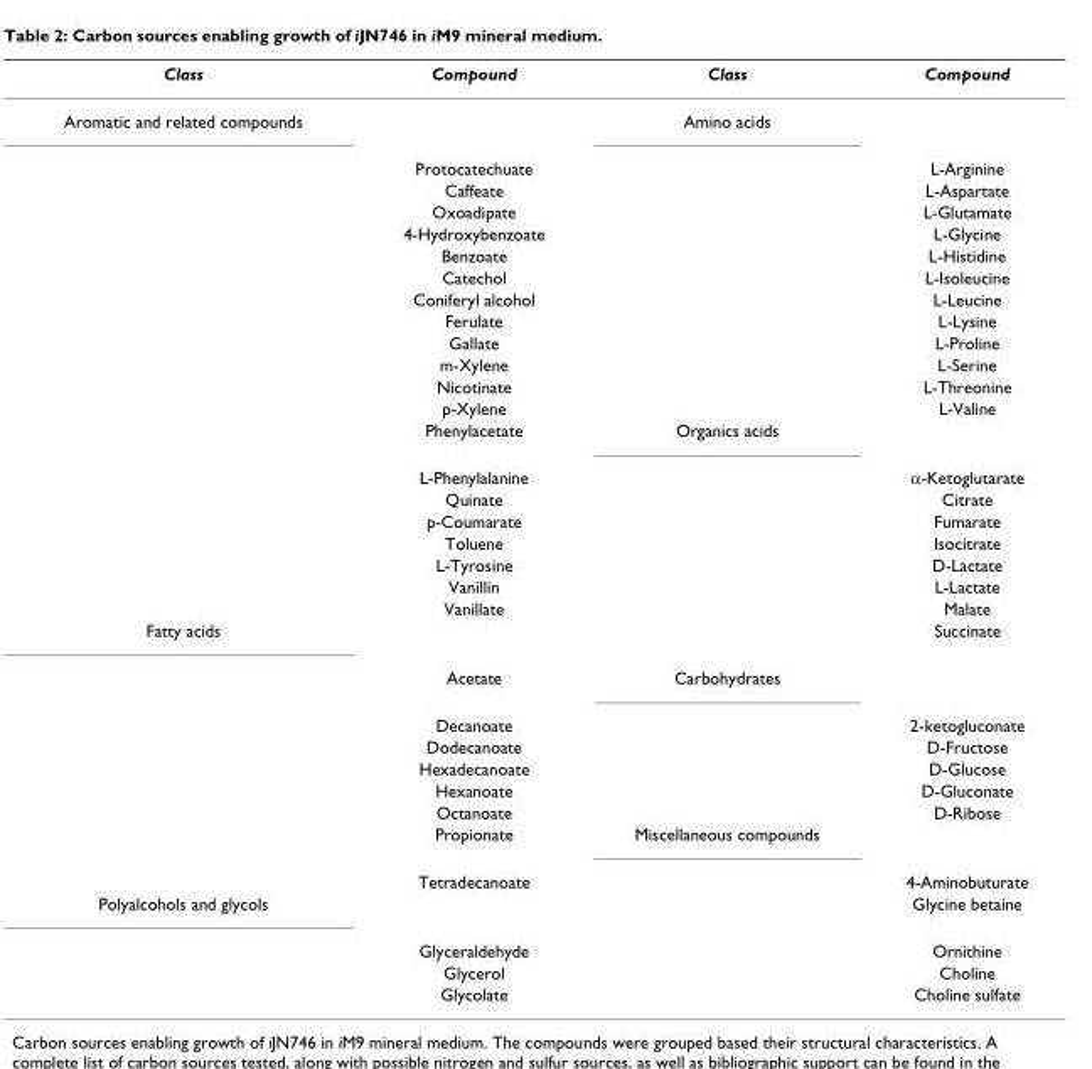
<table><thead><tr><td>Class</td><td>Compound</td><td>Class</td><td>Compound</td></tr></thead><tbody><tr><td rowspan="21">Aromatic and related compounds</td><td></td><td>Amino acids</td><td></td></tr><tr><td>Protocatechuate</td><td></td><td>L-Arginine</td></tr><tr><td>Caffeate</td><td></td><td>L-Aspartate</td></tr><tr><td>Oxoadipate</td><td></td><td>L-Glutamate</td></tr><tr><td>4-Hydroxybenzoate</td><td></td><td>L-Glycine</td></tr><tr><td>Benzoate</td><td></td><td>L-Histidine</td></tr><tr><td>Catechol</td><td></td><td>L-Isoleucine</td></tr><tr><td>Coniferyl alcohol</td><td></td><td>L-Leucine</td></tr><tr><td>Ferulate</td><td></td><td>L-Lysine</td></tr><tr><td>Gallate</td><td></td><td>L-Proline</td></tr><tr><td>m-Xylene</td><td></td><td>L-Serine</td></tr><tr><td>Nicotinate</td><td></td><td>L-Threonine</td></tr><tr><td>p-Xylene</td><td></td><td>L-Valine</td></tr><tr><td>Phenylacetate</td><td>Organics acids</td><td></td></tr><tr><td>L-Phenylalanine</td><td></td><td>α-Ketoglutarate</td></tr><tr><td>Quinate</td><td></td><td>Citrate</td></tr><tr><td>p-Coumarate</td><td></td><td>Fumarate</td></tr><tr><td>Toluene</td><td></td><td>Isocitrate</td></tr><tr><td>L-Tyrosine</td><td></td><td>D-Lactate</td></tr><tr><td>Vanillin</td><td></td><td>L-Lactate</td></tr><tr><td>Vanillate</td><td></td><td>Malate</td></tr><tr><td rowspan="9">Fatty acids</td><td></td><td></td><td>Succinate</td></tr><tr><td>Acetate</td><td>Carbohydrates</td><td></td></tr><tr><td>Decanoate</td><td></td><td>2-ketogluconate</td></tr><tr><td>Dodecanoate</td><td></td><td>D-Fructose</td></tr><tr><td>Hexadecanoate</td><td></td><td>D-Glucose</td></tr><tr><td>Hexanoate</td><td></td><td>D-Gluconate</td></tr><tr><td>Octanoate</td><td></td><td>D-Ribose</td></tr><tr><td>Propionate</td><td>Miscellaneous compounds</td><td></td></tr><tr><td>Tetradecanoate</td><td></td><td>4-Aminobuturate</td></tr><tr><td rowspan="4">Polyalcohols and glycols</td><td></td><td></td><td>Glycine betaine</td></tr><tr><td>Glyceraldehyde</td><td></td><td>Ornithine</td></tr><tr><td>Glycerol</td><td></td><td>Choline</td></tr><tr><td>Glycolate</td><td></td><td>Choline sulfate</td></tr></tbody></table>